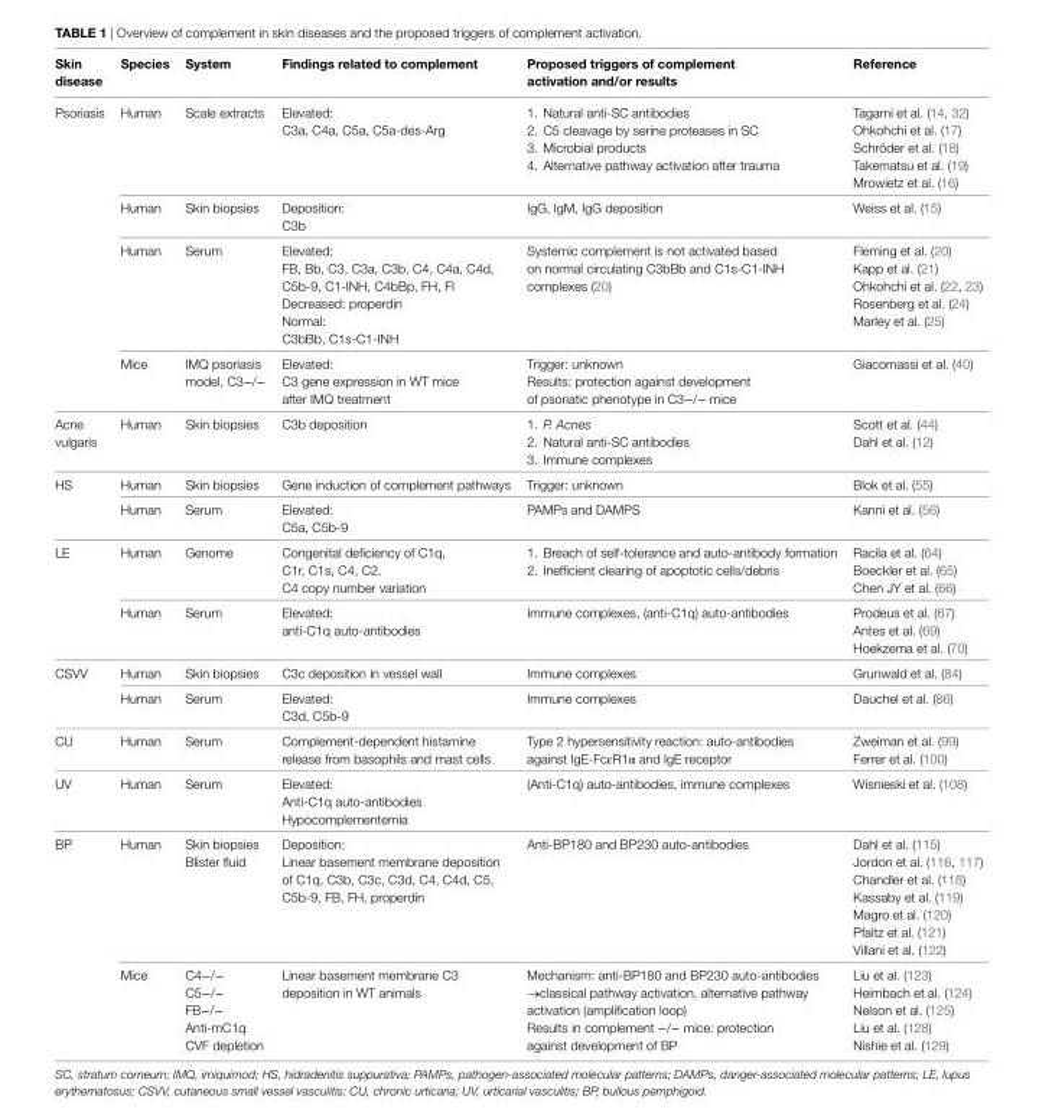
<table><thead><tr><td>Skin disease</td><td>Species</td><td>System</td><td>Findings related to complement</td><td>Proposed triggers of complement activation and/or results</td><td>Reference</td></tr></thead><tbody><tr><td rowspan="4">Psoriasis</td><td>Human</td><td>Scale extracts</td><td>Elevated: C3a, C4a, C5a, C5a-des-Arg</td><td>1. Natural anti-SC antibodies 2. C5 cleavage by serine proteases in SC 3. Microbial products 4. Alternative pathway activation after trauma</td><td>Tagami et al. (14, 32) Ohkohchi et al. (17) Schröder et al. (18) Takematsu et al. (19) Mrowietz et al. (16)</td></tr><tr><td>Human</td><td>Skin biopsies</td><td>Deposition: C3b</td><td>IgG, IgM, IgG deposition</td><td>Weiss et al. (15)</td></tr><tr><td>Human</td><td>Serum</td><td>Elevated: FB, Bb, C3, C3a, C3b, C4, C4a, C4d, C5b-9, C1-INH, C4bBp, FH, FI Decreased: properdin Normal: C3bBb, C1s-C1-INH</td><td>Systemic complement is not activated based on normal circulating C3bBb and C1s-C1-INH complexes (20)</td><td>Fleming et al. (20) Kapp et al. (21) Ohkohchi et al. (22, 23) Rosenberg et al. (24) Marley et al. (25)</td></tr><tr><td>Mice</td><td>IMQ psoriasis model, C3−/−</td><td>Elevated: C3 gene expression in WT mice after IMQ treatment</td><td>Trigger: unknown Results: protection against development of psoriatic phenotype in C3−/− mice</td><td>Giacomassi et al. (40)</td></tr><tr><td>Acne vulgaris</td><td>Human</td><td>Skin biopsies</td><td>C3b deposition</td><td>1. P. Acnes 2. Natural anti-SC antibodies 3. Immune complexes</td><td>Scott et al. (44) Dahl et al. (12)</td></tr><tr><td rowspan="2">HS</td><td>Human</td><td>Skin biopsies</td><td>Gene induction of complement pathways</td><td>Trigger: unknown</td><td>Blok et al. (55)</td></tr><tr><td>Human</td><td>Serum</td><td>Elevated: C5a, C5b-9</td><td>PAMPs and DAMPS</td><td>Kanni et al. (56)</td></tr><tr><td rowspan="2">LE</td><td>Human</td><td>Genome</td><td>Congenital deficiency of C1q, C1r, C1s, C4, C2. C4 copy number variation</td><td>1. Breach of self-tolerance and auto-antibody formation 2. Inefficient clearing of apoptotic cells/debris</td><td>Racila et al. (64) Boeckler et al. (65) Chen JY et al. (66)</td></tr><tr><td>Human</td><td>Serum</td><td>Elevated: anti-C1q auto-antibodies</td><td>Immune complexes, (anti-C1q) auto-antibodies</td><td>Prodeus et al. (67) Antes et al. (69) Hoekzema et al. (70)</td></tr><tr><td rowspan="2">CSVV</td><td>Human</td><td>Skin biopsies</td><td>C3c deposition in vessel wall</td><td>Immune complexes</td><td>Grunwald et al. (84)</td></tr><tr><td>Human</td><td>Serum</td><td>Elevated: C3d, C5b-9</td><td>Immune complexes</td><td>Dauchel et al. (86)</td></tr><tr><td>CU</td><td>Human</td><td>Serum</td><td>Complement-dependent histamine release from basophils and mast cells</td><td>Type 2 hypersensitivity reaction: auto-antibodies against IgE-FcεR1α and IgE receptor</td><td>Zweiman et al. (99) Ferrer et al. (100)</td></tr><tr><td>UV</td><td>Human</td><td>Serum</td><td>Elevated: Anti-C1q auto-antibodies Hypocomplementemia</td><td>(Anti-C1q) auto-antibodies, immune complexes</td><td>Wisnieski et al. (108)</td></tr><tr><td rowspan="2">BP</td><td>Human</td><td>Skin biopsies Blister fluid</td><td>Deposition: Linear basement membrane deposition of C1q, C3b, C3c, C3d, C4, C4d, C5, C5b-9, FB, FH, properdin</td><td>Anti-BP180 and BP230 auto-antibodies</td><td>Dahl et al. (115) Jordon et al. (116, 117) Chandler et al. (118) Kassaby et al. (119) Magro et al. (120) Pfaltz et al. (121) Villani et al. (122)</td></tr><tr><td>Mice</td><td>C4−/− C5−/− FB−/− Anti-mC1q CVF depletion</td><td>Linear basement membrane C3 deposition in WT animals</td><td>Mechanism: anti-BP180 and BP230 auto-antibodies →classical pathway activation, alternative pathway activation (amplification loop) Results in complement −/− mice: protection against development of BP</td><td>Liu et al. (123) Heimbach et al. (124) Nelson et al. (125) Liu et al. (128) Nishie et al. (129)</td></tr></tbody></table>